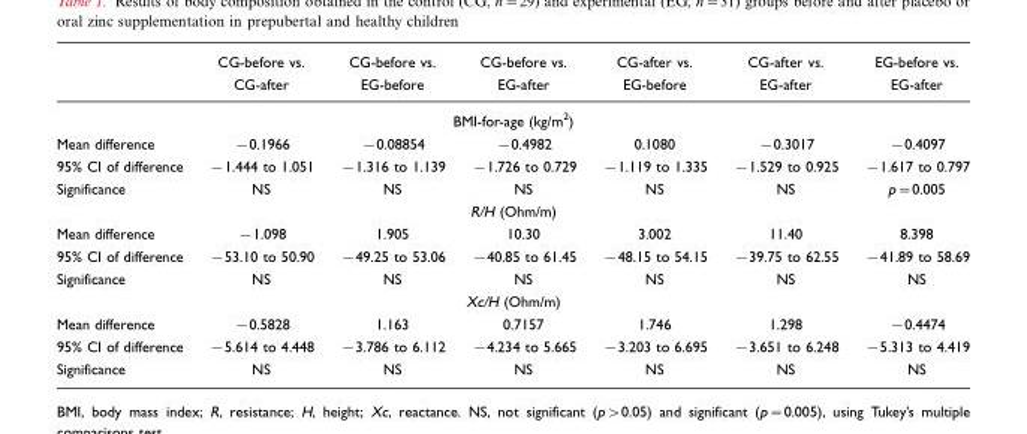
<table><thead><tr><td></td><td>CG-before vs. CG-after</td><td>CG-before vs. EG-before</td><td>CG-before vs. EG-after</td><td>CG-after vs. EG-before</td><td>CG-after vs. EG-after</td><td>EG-before vs. EG-after</td></tr></thead><tbody><tr><td colspan="7">BMI-for-age (kg/m<sup>2</sup>)</td></tr><tr><td>Mean difference</td><td>−0.1966</td><td>−0.08854</td><td>−0.4982</td><td>0.1080</td><td>−0.3017</td><td>−0.4097</td></tr><tr><td>95% CI of difference</td><td>−1.444 to 1.051</td><td>−1.316 to 1.139</td><td>−1.726 to 0.729</td><td>−1.119 to 1.335</td><td>−1.529 to 0.925</td><td>−1.617 to 0.797</td></tr><tr><td>Significance</td><td>NS</td><td>NS</td><td>NS</td><td>NS</td><td>NS</td><td>p=0.005</td></tr><tr><td colspan="7">R/H (Ohm/m)</td></tr><tr><td>Mean difference</td><td>−1.098</td><td>1.905</td><td>10.30</td><td>3.002</td><td>11.40</td><td>8.398</td></tr><tr><td>95% CI of difference</td><td>−53.10 to 50.90</td><td>−49.25 to 53.06</td><td>−40.85 to 61.45</td><td>−48.15 to 54.15</td><td>−39.75 to 62.55</td><td>−41.89 to 58.69</td></tr><tr><td>Significance</td><td>NS</td><td>NS</td><td>NS</td><td>NS</td><td>NS</td><td>NS</td></tr><tr><td colspan="7">Xc/H (Ohm/m)</td></tr><tr><td>Mean difference</td><td>−0.5828</td><td>1.163</td><td>0.7157</td><td>1.746</td><td>1.298</td><td>−0.4474</td></tr><tr><td>95% CI of difference</td><td>−5.614 to 4.448</td><td>−3.786 to 6.112</td><td>−4.234 to 5.665</td><td>−3.203 to 6.695</td><td>−3.651 to 6.248</td><td>−5.313 to 4.419</td></tr><tr><td>Significance</td><td>NS</td><td>NS</td><td>NS</td><td>NS</td><td>NS</td><td>NS</td></tr></tbody></table>